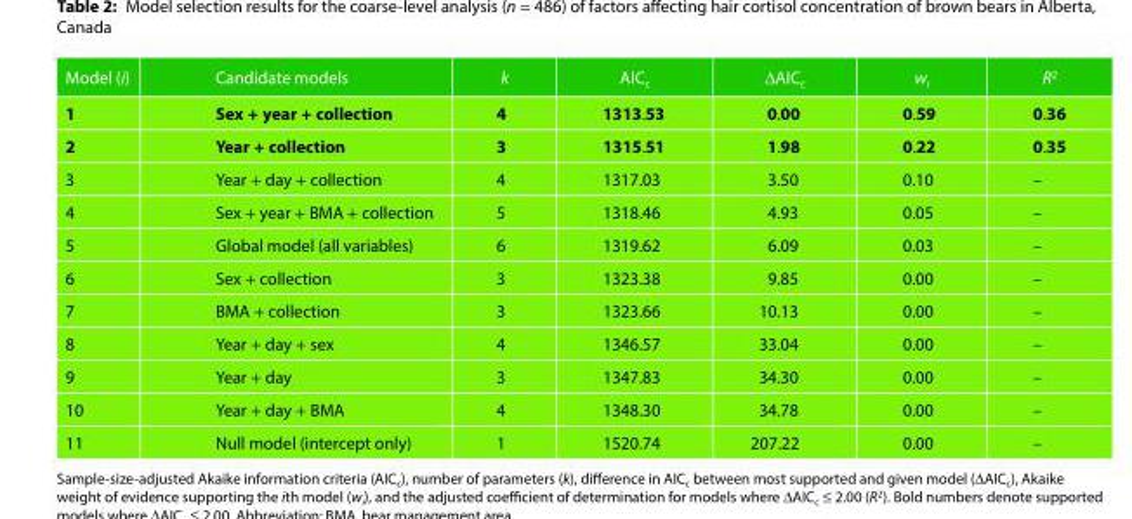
<table><thead><tr><td>Model (i)</td><td>Candidate models</td><td>k</td><td>AIC<sub>c</sub></td><td>ΔAIC<sub>c</sub></td><td>w<sub>i</sub></td><td>R<sup>2</sup></td></tr></thead><tbody><tr><td>1</td><td>Sex + year + collection</td><td>4</td><td>1313.53</td><td>0.00</td><td>0.59</td><td>0.36</td></tr><tr><td>2</td><td>Year + collection</td><td>3</td><td>1315.51</td><td>1.98</td><td>0.22</td><td>0.35</td></tr><tr><td>3</td><td>Year + day + collection</td><td>4</td><td>1317.03</td><td>3.50</td><td>0.10</td><td>–</td></tr><tr><td>4</td><td>Sex + year + BMA + collection</td><td>5</td><td>1318.46</td><td>4.93</td><td>0.05</td><td>–</td></tr><tr><td>5</td><td>Global model (all variables)</td><td>6</td><td>1319.62</td><td>6.09</td><td>0.03</td><td>–</td></tr><tr><td>6</td><td>Sex + collection</td><td>3</td><td>1323.38</td><td>9.85</td><td>0.00</td><td>–</td></tr><tr><td>7</td><td>BMA + collection</td><td>3</td><td>1323.66</td><td>10.13</td><td>0.00</td><td>–</td></tr><tr><td>8</td><td>Year + day + sex</td><td>4</td><td>1346.57</td><td>33.04</td><td>0.00</td><td>–</td></tr><tr><td>9</td><td>Year + day</td><td>3</td><td>1347.83</td><td>34.30</td><td>0.00</td><td>–</td></tr><tr><td>10</td><td>Year + day + BMA</td><td>4</td><td>1348.30</td><td>34.78</td><td>0.00</td><td>–</td></tr><tr><td>11</td><td>Null model (intercept only)</td><td>1</td><td>1520.74</td><td>207.22</td><td>0.00</td><td>–</td></tr></tbody></table>